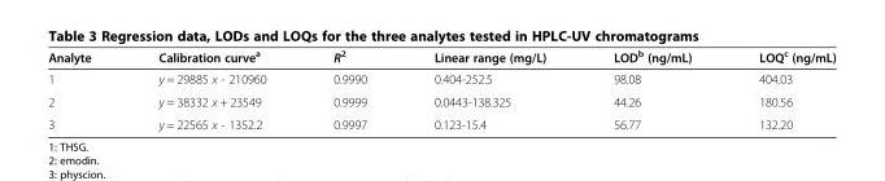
<table><thead><tr><td>Analyte</td><td>Calibration curve<sup>a</sup></td><td>R<sup>2</sup></td><td>Linear range (mg/L)</td><td>LOD<sup>b</sup> (ng/mL)</td><td>LOQ<sup>c</sup> (ng/mL)</td></tr></thead><tbody><tr><td>1</td><td>y = 29885 x - 210960</td><td>0.9990</td><td>0.404-252.5</td><td>98.08</td><td>404.03</td></tr><tr><td>2</td><td>y = 38332 x + 23549</td><td>0.9999</td><td>0.0443-138.325</td><td>44.26</td><td>180.56</td></tr><tr><td>3</td><td>y = 22565 x - 1352.2</td><td>0.9997</td><td>0.123-15.4</td><td>56.77</td><td>132.20</td></tr></tbody></table>